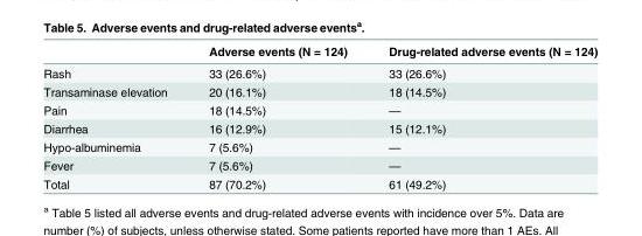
<table><thead><tr><td></td><td>Adverse events (N = 124)</td><td>Drug-related adverse events (N = 124)</td></tr></thead><tbody><tr><td>Rash</td><td>33 (26.6%)</td><td>33 (26.6%)</td></tr><tr><td>Transaminase elevation</td><td>20 (16.1%)</td><td>18 (14.5%)</td></tr><tr><td>Pain</td><td>18 (14.5%)</td><td>—</td></tr><tr><td>Diarrhea</td><td>16 (12.9%)</td><td>15 (12.1%)</td></tr><tr><td>Hypo-albuminemia</td><td>7 (5.6%)</td><td>—</td></tr><tr><td>Fever</td><td>7 (5.6%)</td><td>—</td></tr><tr><td>Total</td><td>87 (70.2%)</td><td>61 (49.2%)</td></tr></tbody></table>